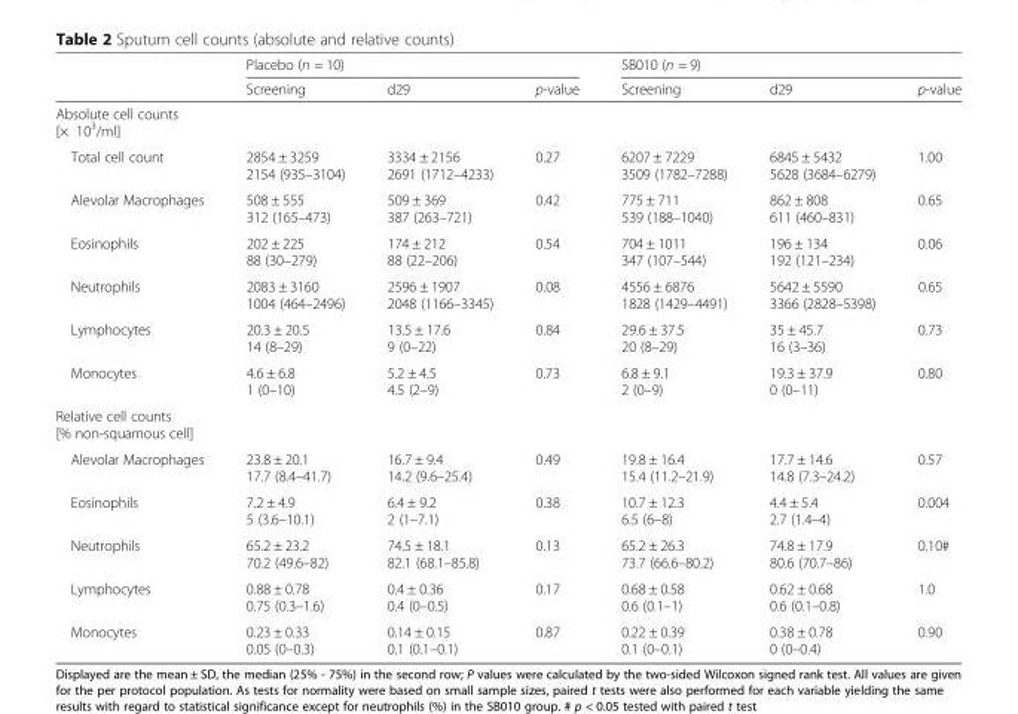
<table><thead><tr><td rowspan="2"></td><td colspan="3">Placebo (n = 10)</td><td colspan="3">SB010 (n = 9)</td></tr><tr><td>Screening</td><td>d29</td><td>p-value</td><td>Screening</td><td>d29</td><td>p-value</td></tr></thead><tbody><tr><td colspan="7">Absolute cell counts [× 10<sup>3</sup>/ml]</td></tr><tr><td>Total cell count</td><td>2854 ± 3259 2154 (935–3104)</td><td>3334 ± 2156 2691 (1712–4233)</td><td>0.27</td><td>6207 ± 7229 3509 (1782–7288)</td><td>6845 ± 5432 5628 (3684–6279)</td><td>1.00</td></tr><tr><td>Alevolar Macrophages</td><td>508 ± 555 312 (165–473)</td><td>509 ± 369 387 (263–721)</td><td>0.42</td><td>775 ± 711 539 (188–1040)</td><td>862 ± 808 611 (460–831)</td><td>0.65</td></tr><tr><td>Eosinophils</td><td>202 ± 225 88 (30–279)</td><td>174 ± 212 88 (22–206)</td><td>0.54</td><td>704 ± 1011 347 (107–544)</td><td>196 ± 134 192 (121–234)</td><td>0.06</td></tr><tr><td>Neutrophils</td><td>2083 ± 3160 1004 (464–2496)</td><td>2596 ± 1907 2048 (1166–3345)</td><td>0.08</td><td>4556 ± 6876 1828 (1429–4491)</td><td>5642 ± 5590 3366 (2828–5398)</td><td>0.65</td></tr><tr><td>Lymphocytes</td><td>20.3 ± 20.5 14 (8–29)</td><td>13.5 ± 17.6 9 (0–22)</td><td>0.84</td><td>29.6 ± 37.5 20 (8–29)</td><td>35 ± 45.7 16 (3–36)</td><td>0.73</td></tr><tr><td>Monocytes</td><td>4.6 ± 6.8 1 (0–10)</td><td>5.2 ± 4.5 4.5 (2–9)</td><td>0.73</td><td>6.8 ± 9.1 2 (0–9)</td><td>19.3 ± 37.9 0 (0–11)</td><td>0.80</td></tr><tr><td colspan="7">Relative cell counts [% non-squamous cell]</td></tr><tr><td>Alevolar Macrophages</td><td>23.8 ± 20.1 17.7 (8.4–41.7)</td><td>16.7 ± 9.4 14.2 (9.6–25.4)</td><td>0.49</td><td>19.8 ± 16.4 15.4 (11.2–21.9)</td><td>17.7 ± 14.6 14.8 (7.3–24.2)</td><td>0.57</td></tr><tr><td>Eosinophils</td><td>7.2 ± 4.9 5 (3.6–10.1)</td><td>6.4 ± 9.2 2 (1–7.1)</td><td>0.38</td><td>10.7 ± 12.3 6.5 (6–8)</td><td>4.4 ± 5.4 2.7 (1.4–4)</td><td>0.004</td></tr><tr><td>Neutrophils</td><td>65.2 ± 23.2 70.2 (49.6–82)</td><td>74.5 ± 18.1 82.1 (68.1–85.8)</td><td>0.13</td><td>65.2 ± 26.3 73.7 (66.6–80.2)</td><td>74.8 ± 17.9 80.6 (70.7–86)</td><td>0.10#</td></tr><tr><td>Lymphocytes</td><td>0.88 ± 0.78 0.75 (0.3–1.6)</td><td>0.4 ± 0.36 0.4 (0–0.5)</td><td>0.17</td><td>0.68 ± 0.58 0.6 (0.1–1)</td><td>0.62 ± 0.68 0.6 (0.1–0.8)</td><td>1.0</td></tr><tr><td>Monocytes</td><td>0.23 ± 0.33 0.05 (0–0.3)</td><td>0.14 ± 0.15 0.1 (0.1–0.1)</td><td>0.87</td><td>0.22 ± 0.39 0.1 (0–0.1)</td><td>0.38 ± 0.78 0 (0–0.4)</td><td>0.90</td></tr></tbody></table>